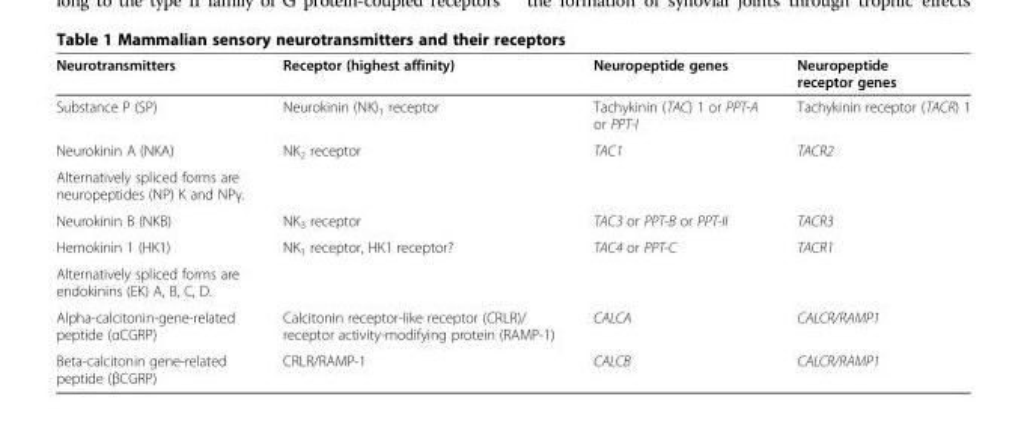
<table><thead><tr><td>Neurotransmitters</td><td>Receptor (highest affinity)</td><td>Neuropeptide genes</td><td>Neuropeptide receptor genes</td></tr></thead><tbody><tr><td>Substance P (SP)</td><td>Neurokinin (NK)<sub>1</sub> receptor</td><td>Tachykinin (TAC) 1 or PPT-A or PPT-I</td><td>Tachykinin receptor (TACR) 1</td></tr><tr><td>Neurokinin A (NKA)</td><td rowspan="2">NK<sub>2</sub> receptor</td><td rowspan="2">TAC1</td><td rowspan="2">TACR2</td></tr><tr><td>Alternatively spliced forms are neuropeptides (NP) K and NPγ.</td></tr><tr><td>Neurokinin B (NKB)</td><td>NK<sub>3</sub> receptor</td><td>TAC3 or PPT-B or PPT-II</td><td>TACR3</td></tr><tr><td>Hemokinin 1 (HK1)</td><td rowspan="2">NK<sub>1</sub> receptor, HK1 receptor?</td><td rowspan="2">TAC4 or PPT-C</td><td rowspan="2">TACR1</td></tr><tr><td>Alternatively spliced forms are endokinins (EK) A, B, C, D.</td></tr><tr><td>Alpha-calcitonin-gene-related peptide (αCGRP)</td><td>Calcitonin receptor-like receptor (CRLR)/ receptor activity-modifying protein (RAMP-1)</td><td>CALCA</td><td>CALCR/RAMP1</td></tr><tr><td>Beta-calcitonin gene-related peptide (βCGRP)</td><td>CRLR/RAMP-1</td><td>CALCB</td><td>CALCR/RAMP1</td></tr></tbody></table>